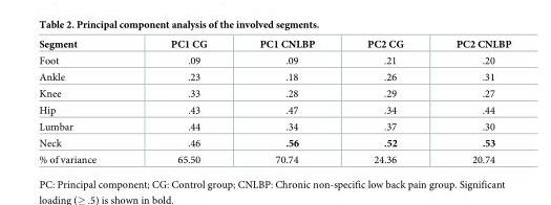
<table><thead><tr><td>Segment</td><td>PC1 CG</td><td>PC1 CNLBP</td><td>PC2 CG</td><td>PC2 CNLBP</td></tr></thead><tbody><tr><td>Foot</td><td>.09</td><td>.09</td><td>.21</td><td>.20</td></tr><tr><td>Ankle</td><td>.23</td><td>.18</td><td>.26</td><td>.31</td></tr><tr><td>Knee</td><td>.33</td><td>.28</td><td>.29</td><td>.27</td></tr><tr><td>Hip</td><td>.43</td><td>.47</td><td>.34</td><td>.44</td></tr><tr><td>Lumbar</td><td>.44</td><td>.34</td><td>.37</td><td>.30</td></tr><tr><td>Neck</td><td>.46</td><td>.56</td><td>.52</td><td>.53</td></tr><tr><td>% of variance</td><td>65.50</td><td>70.74</td><td>24.36</td><td>20.74</td></tr></tbody></table>